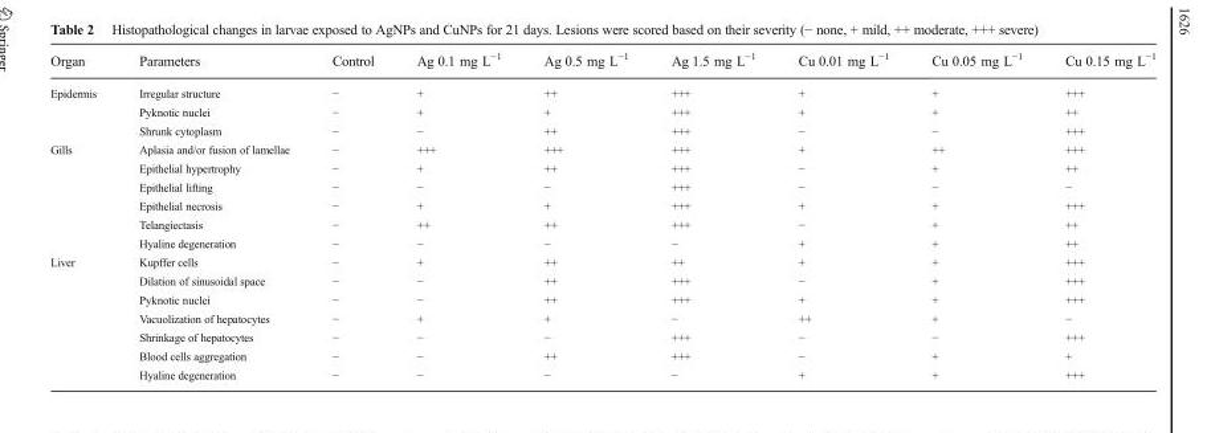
<table><thead><tr><td>Organ</td><td>Parameters</td><td>Control</td><td>Ag 0.1 mg L<sup>−1</sup></td><td>Ag 0.5 mg L<sup>−1</sup></td><td>Ag 1.5 mg L<sup>−1</sup></td><td>Cu 0.01 mg L<sup>−1</sup></td><td>Cu 0.05 mg L<sup>−1</sup></td><td>Cu 0.15 mg L<sup>−1</sup></td></tr></thead><tbody><tr><td rowspan="3">Epidermis</td><td>Irregular structure</td><td>−</td><td>+</td><td>++</td><td>+++</td><td>+</td><td>+</td><td>+++</td></tr><tr><td>Pyknotic nuclei</td><td>−</td><td>+</td><td>+</td><td>+++</td><td>+</td><td>+</td><td>++</td></tr><tr><td>Shrunk cytoplasm</td><td>−</td><td>−</td><td>++</td><td>+++</td><td>−</td><td>−</td><td>+++</td></tr><tr><td rowspan="6">Gills</td><td>Aplasia and/or fusion of lamellae</td><td>−</td><td>+++</td><td>+++</td><td>+++</td><td>+</td><td>++</td><td>+++</td></tr><tr><td>Epithelial hypertrophy</td><td>−</td><td>+</td><td>++</td><td>+++</td><td>−</td><td>+</td><td>++</td></tr><tr><td>Epithelial lifting</td><td>−</td><td>−</td><td>−</td><td>+++</td><td>−</td><td>−</td><td>−</td></tr><tr><td>Epithelial necrosis</td><td>−</td><td>+</td><td>+</td><td>+++</td><td>+</td><td>+</td><td>+++</td></tr><tr><td>Telangiectasis</td><td>−</td><td>++</td><td>++</td><td>+++</td><td>−</td><td>+</td><td>++</td></tr><tr><td>Hyaline degeneration</td><td>−</td><td>−</td><td>−</td><td>−</td><td>+</td><td>+</td><td>++</td></tr><tr><td rowspan="7">Liver</td><td>Kupffer cells</td><td>−</td><td>+</td><td>++</td><td>++</td><td>+</td><td>+</td><td>+++</td></tr><tr><td>Dilation of sinusoidal space</td><td>−</td><td>−</td><td>++</td><td>+++</td><td>−</td><td>+</td><td>+++</td></tr><tr><td>Pyknotic nuclei</td><td>−</td><td>−</td><td>++</td><td>+++</td><td>+</td><td>+</td><td>+++</td></tr><tr><td>Vacuolization of hepatocytes</td><td>−</td><td>+</td><td>+</td><td>−</td><td>++</td><td>+</td><td>−</td></tr><tr><td>Shrinkage of hepatocytes</td><td>−</td><td>−</td><td>−</td><td>+++</td><td>−</td><td>−</td><td>+++</td></tr><tr><td>Blood cells aggregation</td><td>−</td><td>−</td><td>++</td><td>+++</td><td>−</td><td>+</td><td>+</td></tr><tr><td>Hyaline degeneration</td><td>−</td><td>−</td><td>−</td><td>−</td><td>+</td><td>+</td><td>+++</td></tr></tbody></table>